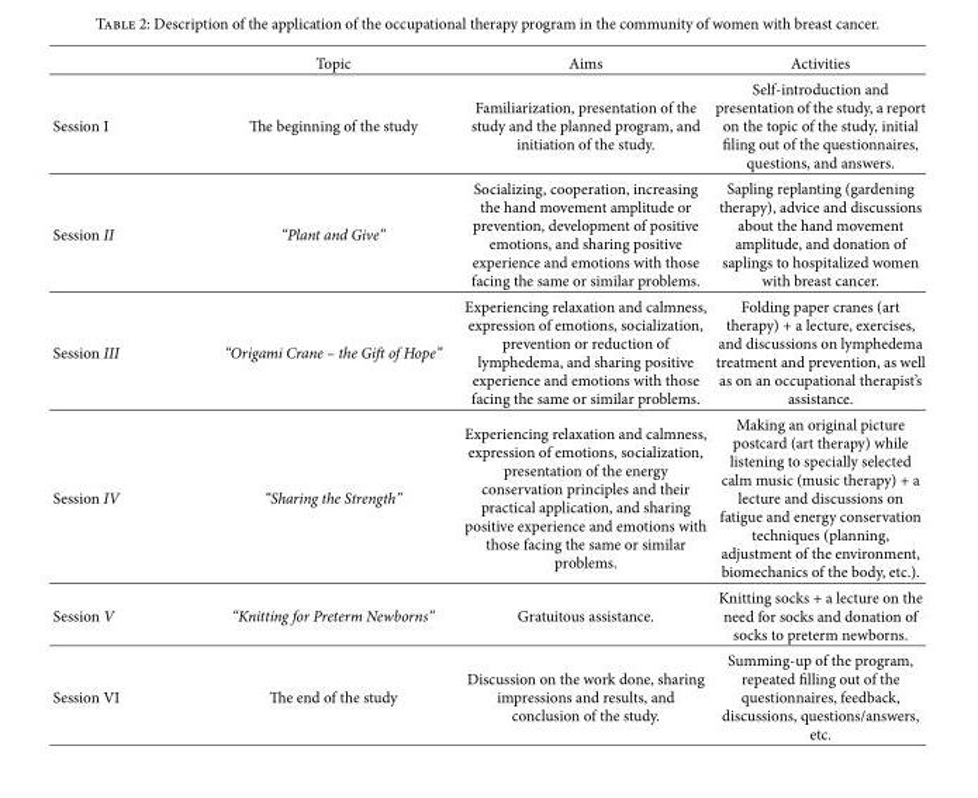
<table><thead><tr><td></td><td>Topic</td><td>Aims</td><td>Activities</td></tr></thead><tbody><tr><td>Session I</td><td>The beginning of the study</td><td>Familiarization, presentation of the study and the planned program, and initiation of the study.</td><td>Self-introduction and presentation of the study, a report on the topic of the study, initial filing out of the questionnaires, questions, and answers.</td></tr><tr><td>Session II</td><td>“Plant and Give”</td><td>Socializing, cooperation, increasing the hand movement amplitude or prevention, development of positive emotions, and sharing positive experience and emotions with those facing the same or similar problems.</td><td>Sapling replanting (gardening therapy), advice and discussions about the hand movement amplitude, and donation of saplings to hospitalized women with breast cancer.</td></tr><tr><td>Session III</td><td>“Origami Crane – the Gift of Hope”</td><td>Experiencing relaxation and calmness, expression of emotions, socialization, prevention or reduction of lymphedema, and sharing positive experience and emotions with those facing the same or similar problems.</td><td>Folding paper cranes (art therapy) + a lecture, exercises, and discussions on lymphedema treatment and prevention, as well as on an occupational therapist’s assistance.</td></tr><tr><td>Session IV</td><td>“Sharing the Strength”</td><td>Experiencing relaxation and calmness, expression of emotions, socialization, presentation of the energy conservation principles and their practical application, and sharing positive experience and emotions with those facing the same or similar problems.</td><td>Making an original picture postcard (art therapy) while listening to specially selected calm music (music therapy) + a lecture and discussions on fatigue and energy conservation techniques (planning, adjustment of the environment, biomechanics of the body, etc.).</td></tr><tr><td>Session V</td><td>“Knitting for Preterm Newborns”</td><td>Gratuitous assistance.</td><td>Knitting socks + a lecture on the need for socks and donation of socks to preterm newborns.</td></tr><tr><td>Session VI</td><td>The end of the study</td><td>Discussion on the work done, sharing impressions and results, and conclusion of the study.</td><td>Summing-up of the program, repeated filling out of the questionnaires, feedback, discussions, questions/answers, etc.</td></tr></tbody></table>